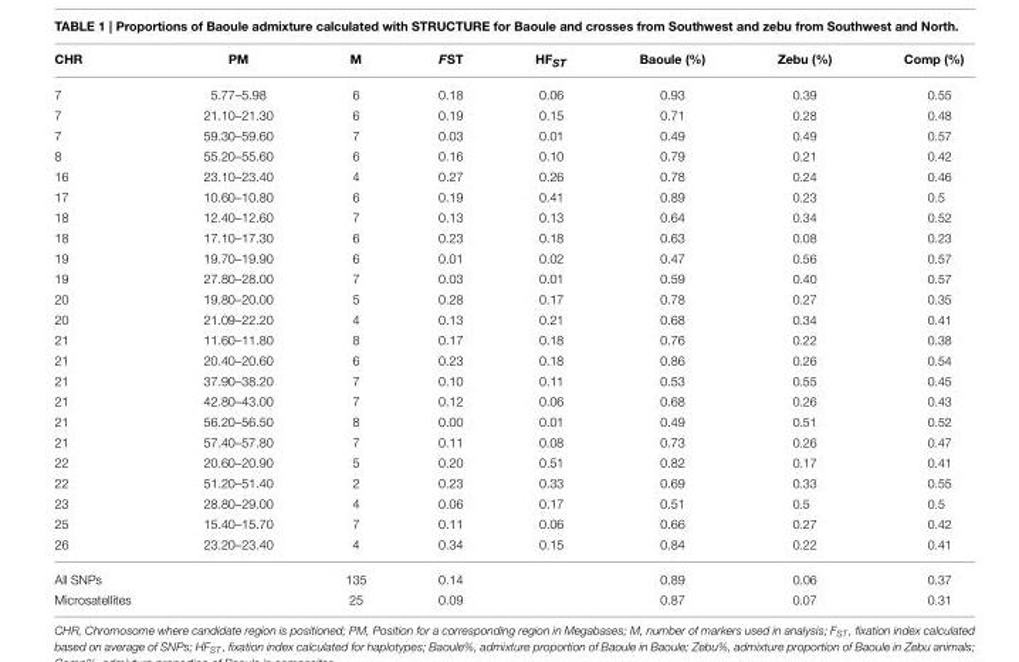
<table><thead><tr><td>CHR</td><td>PM</td><td>M</td><td>FST</td><td>HF<sub>ST</sub></td><td>Baoule (%)</td><td>Zebu (%)</td><td>Comp (%)</td></tr></thead><tbody><tr><td>7</td><td>5.77–5.98</td><td>6</td><td>0.18</td><td>0.06</td><td>0.93</td><td>0.39</td><td>0.55</td></tr><tr><td>7</td><td>21.10–21.30</td><td>6</td><td>0.19</td><td>0.15</td><td>0.71</td><td>0.28</td><td>0.48</td></tr><tr><td>7</td><td>59.30–59.60</td><td>7</td><td>0.03</td><td>0.01</td><td>0.49</td><td>0.49</td><td>0.57</td></tr><tr><td>8</td><td>55.20–55.60</td><td>6</td><td>0.16</td><td>0.10</td><td>0.79</td><td>0.21</td><td>0.42</td></tr><tr><td>16</td><td>23.10–23.40</td><td>4</td><td>0.27</td><td>0.26</td><td>0.78</td><td>0.24</td><td>0.46</td></tr><tr><td>17</td><td>10.60–10.80</td><td>6</td><td>0.19</td><td>0.41</td><td>0.89</td><td>0.23</td><td>0.5</td></tr><tr><td>18</td><td>12.40–12.60</td><td>7</td><td>0.13</td><td>0.13</td><td>0.64</td><td>0.34</td><td>0.52</td></tr><tr><td>18</td><td>17.10–17.30</td><td>6</td><td>0.23</td><td>0.18</td><td>0.63</td><td>0.08</td><td>0.23</td></tr><tr><td>19</td><td>19.70–19.90</td><td>6</td><td>0.01</td><td>0.02</td><td>0.47</td><td>0.56</td><td>0.57</td></tr><tr><td>19</td><td>27.80–28.00</td><td>7</td><td>0.03</td><td>0.01</td><td>0.59</td><td>0.40</td><td>0.57</td></tr><tr><td>20</td><td>19.80–20.00</td><td>5</td><td>0.28</td><td>0.17</td><td>0.78</td><td>0.27</td><td>0.35</td></tr><tr><td>20</td><td>21.09–22.20</td><td>4</td><td>0.13</td><td>0.21</td><td>0.68</td><td>0.34</td><td>0.41</td></tr><tr><td>21</td><td>11.60–11.80</td><td>8</td><td>0.17</td><td>0.18</td><td>0.76</td><td>0.22</td><td>0.38</td></tr><tr><td>21</td><td>20.40–20.60</td><td>6</td><td>0.23</td><td>0.18</td><td>0.86</td><td>0.26</td><td>0.54</td></tr><tr><td>21</td><td>37.90–38.20</td><td>7</td><td>0.10</td><td>0.11</td><td>0.53</td><td>0.55</td><td>0.45</td></tr><tr><td>21</td><td>42.80–43.00</td><td>7</td><td>0.12</td><td>0.06</td><td>0.68</td><td>0.26</td><td>0.43</td></tr><tr><td>21</td><td>56.20–56.50</td><td>8</td><td>0.00</td><td>0.01</td><td>0.49</td><td>0.51</td><td>0.52</td></tr><tr><td>21</td><td>57.40–57.80</td><td>7</td><td>0.11</td><td>0.08</td><td>0.73</td><td>0.26</td><td>0.47</td></tr><tr><td>22</td><td>20.60–20.90</td><td>5</td><td>0.20</td><td>0.51</td><td>0.82</td><td>0.17</td><td>0.41</td></tr><tr><td>22</td><td>51.20–51.40</td><td>2</td><td>0.23</td><td>0.33</td><td>0.69</td><td>0.33</td><td>0.55</td></tr><tr><td>23</td><td>28.80–29.00</td><td>4</td><td>0.06</td><td>0.17</td><td>0.51</td><td>0.5</td><td>0.5</td></tr><tr><td>25</td><td>15.40–15.70</td><td>7</td><td>0.11</td><td>0.06</td><td>0.66</td><td>0.27</td><td>0.42</td></tr><tr><td>26</td><td>23.20–23.40</td><td>4</td><td>0.34</td><td>0.15</td><td>0.84</td><td>0.22</td><td>0.41</td></tr><tr><td>All SNPs</td><td></td><td>135</td><td>0.14</td><td></td><td>0.89</td><td>0.06</td><td>0.37</td></tr><tr><td>Microsatellites</td><td></td><td>25</td><td>0.09</td><td></td><td>0.87</td><td>0.07</td><td>0.31</td></tr></tbody></table>